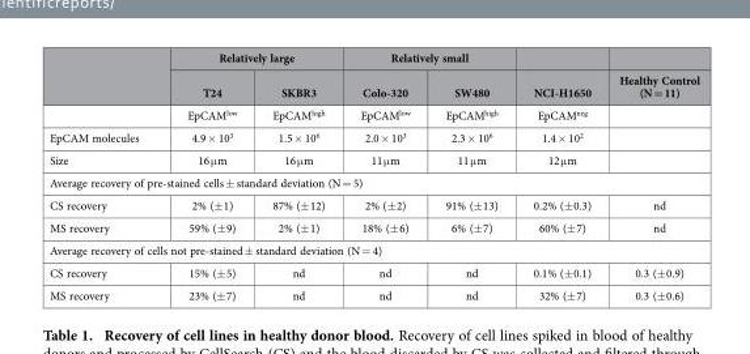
<table><thead><tr><td rowspan="2"></td><td colspan="2">Relatively large</td><td colspan="2">Relatively small</td><td rowspan="2">NCI-H1650</td><td rowspan="2">Healthy Control (N = 11)</td></tr><tr><td>T24</td><td>SKBR3</td><td>Colo-320</td><td>SW480</td></tr></thead><tbody><tr><td></td><td>EpCAM<sup>low</sup></td><td>EpCAM<sup>high</sup></td><td>EpCAM<sup>low</sup></td><td>EpCAM<sup>high</sup></td><td>EpCAM<sup>neg</sup></td><td></td></tr><tr><td>EpCAM molecules</td><td>4.9 × 10<sup>3</sup></td><td>1.5 × 10<sup>6</sup></td><td>2.0 × 10<sup>3</sup></td><td>2.3 × 10<sup>6</sup></td><td>1.4 × 10<sup>2</sup></td><td></td></tr><tr><td>Size</td><td>16 μ m</td><td>16 μ m</td><td>11 μ m</td><td>11 μ m</td><td>12 μ m</td><td></td></tr><tr><td colspan="7">Average recovery of pre-stained cells ± standard deviation (N = 5)</td></tr><tr><td>CS recovery</td><td>2% (± 1)</td><td>87% (± 12)</td><td>2% (± 2)</td><td>91% (± 13)</td><td>0.2% (± 0.3)</td><td>nd</td></tr><tr><td>MS recovery</td><td>59% (± 9)</td><td>2% (± 1)</td><td>18% (± 6)</td><td>6% (± 7)</td><td>60% (± 7)</td><td>nd</td></tr><tr><td colspan="7">Average recovery of cells not pre-stained ± standard deviation (N = 4)</td></tr><tr><td>CS recovery</td><td>15% (± 5)</td><td>nd</td><td>nd</td><td>nd</td><td>0.1% (± 0.1)</td><td>0.3 (± 0.9)</td></tr><tr><td>MS recovery</td><td>23% (± 7)</td><td>nd</td><td>nd</td><td>nd</td><td>32% (± 7)</td><td>0.3 (± 0.6)</td></tr></tbody></table>